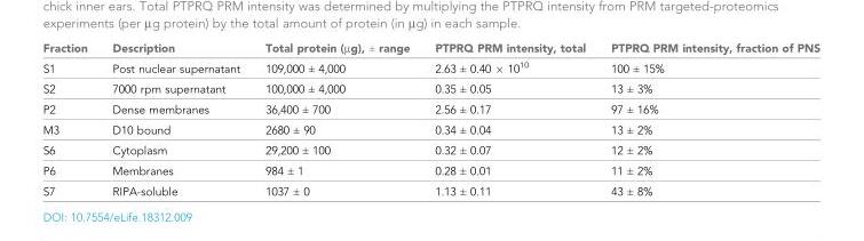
<table><thead><tr><td>Fraction</td><td>Description</td><td>Total protein (µg), ± range</td><td>PTPRQ PRM intensity, total</td><td>PTPRQ PRM intensity, fraction of PNS</td></tr></thead><tbody><tr><td>S1</td><td>Post nuclear supernatant</td><td>109,000 ± 4,000</td><td>2.63 ± 0.40 × 10<sup>10</sup></td><td>100 ± 15%</td></tr><tr><td>S2</td><td>7000 rpm supernatant</td><td>100,000 ± 4,000</td><td>0.35 ± 0.05</td><td>13 ± 3%</td></tr><tr><td>P2</td><td>Dense membranes</td><td>36,400 ± 700</td><td>2.56 ± 0.17</td><td>97 ± 16%</td></tr><tr><td>M3</td><td>D10 bound</td><td>2680 ± 90</td><td>0.34 ± 0.04</td><td>13 ± 2%</td></tr><tr><td>S6</td><td>Cytoplasm</td><td>29,200 ± 100</td><td>0.32 ± 0.07</td><td>12 ± 2%</td></tr><tr><td>P6</td><td>Membranes</td><td>984 ± 1</td><td>0.28 ± 0.01</td><td>11 ± 2%</td></tr><tr><td>S7</td><td>RIPA-soluble</td><td>1037 ± 0</td><td>1.13 ± 0.11</td><td>43 ± 8%</td></tr></tbody></table>